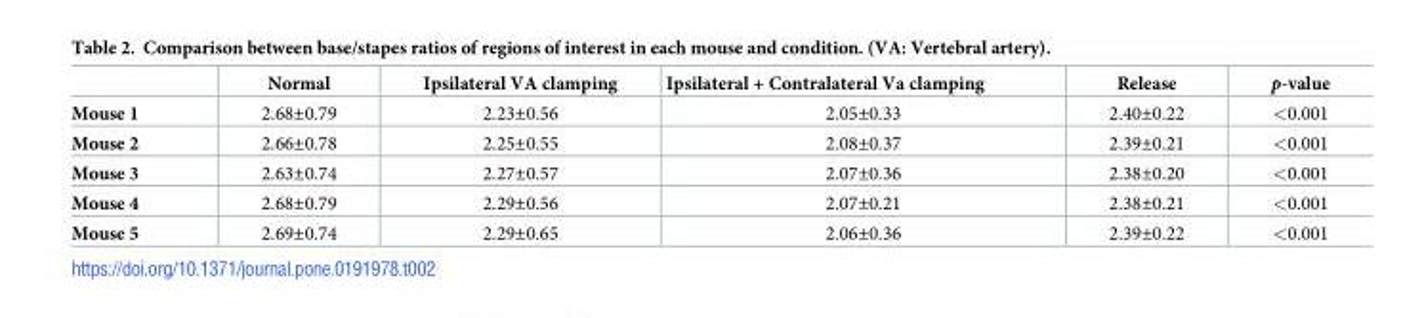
<table><thead><tr><td></td><td>Normal</td><td>Ipsilateral VA clamping</td><td>Ipsilateral + Contralateral Va clamping</td><td>Release</td><td>p-value</td></tr></thead><tbody><tr><td>Mouse 1</td><td>2.68±0.79</td><td>2.23±0.56</td><td>2.05±0.33</td><td>2.40±0.22</td><td>&lt;0.001</td></tr><tr><td>Mouse 2</td><td>2.66±0.78</td><td>2.25±0.55</td><td>2.08±0.37</td><td>2.39±0.21</td><td>&lt;0.001</td></tr><tr><td>Mouse 3</td><td>2.63±0.74</td><td>2.27±0.57</td><td>2.07±0.36</td><td>2.38±0.20</td><td>&lt;0.001</td></tr><tr><td>Mouse 4</td><td>2.68±0.79</td><td>2.29±0.56</td><td>2.07±0.21</td><td>2.38±0.21</td><td>&lt;0.001</td></tr><tr><td>Mouse 5</td><td>2.69±0.74</td><td>2.29±0.65</td><td>2.06±0.36</td><td>2.39±0.22</td><td>&lt;0.001</td></tr></tbody></table>